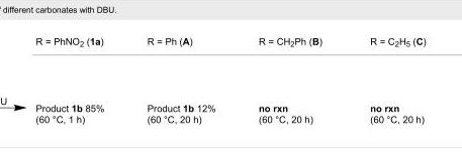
<table><tbody><tr><td>R = PhNO<sub>2</sub> (1a)</td><td>R = Ph (A)</td><td>R = CH<sub>2</sub>Ph (B)</td><td>R = C<sub>2</sub>H<sub>5</sub> (C)</td></tr><tr><td>Product 1b 85% (60 °C, 1 h)</td><td>Product 1b 12% (60 °C, 20 h)</td><td>no rxn (60 °C, 20 h)</td><td>no rxn (60 °C, 20 h)</td></tr></tbody></table>